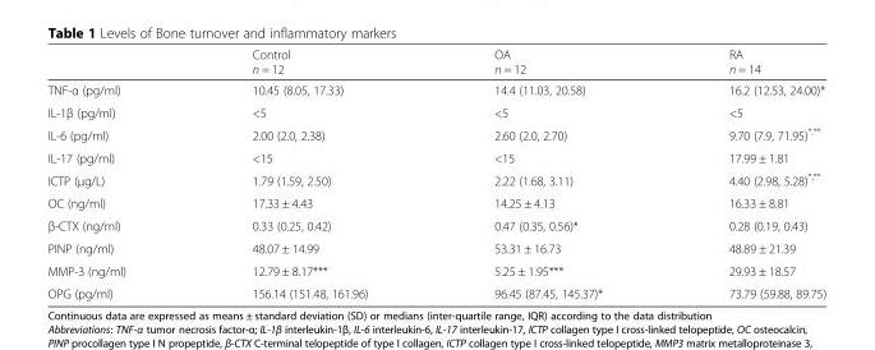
<table><thead><tr><td></td><td>Control n = 12</td><td>OA n = 12</td><td>RA n = 14</td></tr></thead><tbody><tr><td>TNF-α (pg/ml)</td><td>10.45 (8.05, 17.33)</td><td>14.4 (11.03, 20.58)</td><td>16.2 (12.53, 24.00)*</td></tr><tr><td>IL-1β (pg/ml)</td><td>&lt;5</td><td>&lt;5</td><td>&lt;5</td></tr><tr><td>IL-6 (pg/ml)</td><td>2.00 (2.0, 2.38)</td><td>2.60 (2.0, 2.70)</td><td>9.70 (7.9, 71.95)<sup>*,**</sup></td></tr><tr><td>IL-17 (pg/ml)</td><td>&lt;15</td><td>&lt;15</td><td>17.99 ± 1.81</td></tr><tr><td>ICTP (μg/L)</td><td>1.79 (1.59, 2.50)</td><td>2.22 (1.68, 3.11)</td><td>4.40 (2.98, 5.28)<sup>*,**</sup></td></tr><tr><td>OC (ng/ml)</td><td>17.33 ± 4.43</td><td>14.25 ± 4.13</td><td>16.33 ± 8.81</td></tr><tr><td>β-CTX (ng/ml)</td><td>0.33 (0.25, 0.42)</td><td>0.47 (0.35, 0.56)*</td><td>0.28 (0.19, 0.43)</td></tr><tr><td>PINP (ng/ml)</td><td>48.07 ± 14.99</td><td>53.31 ± 16.73</td><td>48.89 ± 21.39</td></tr><tr><td>MMP-3 (ng/ml)</td><td>12.79 ± 8.17***</td><td>5.25 ± 1.95***</td><td>29.93 ± 18.57</td></tr><tr><td>OPG (pg/ml)</td><td>156.14 (151.48, 161.96)</td><td>96.45 (87.45, 145.37)*</td><td>73.79 (59.88, 89.75)</td></tr></tbody></table>